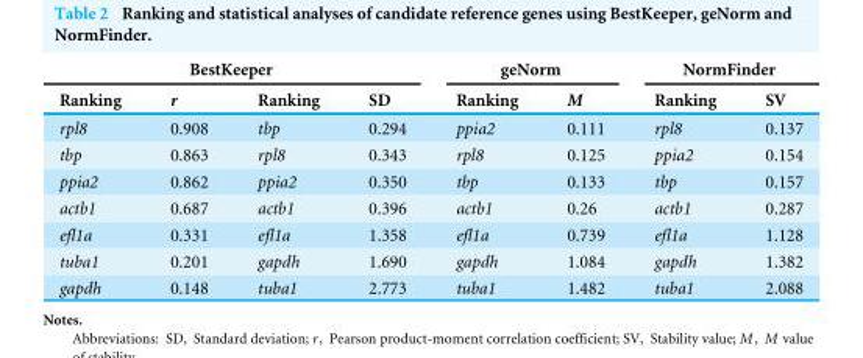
<table><thead><tr><td colspan="4">BestKeeper</td><td colspan="2">geNorm</td><td colspan="2">NormFinder</td></tr><tr><td>Ranking</td><td>r</td><td>Ranking</td><td>SD</td><td>Ranking</td><td>M</td><td>Ranking</td><td>SV</td></tr></thead><tbody><tr><td>rpl8</td><td>0.908</td><td>tbp</td><td>0.294</td><td>ppia2</td><td>0.111</td><td>rpl8</td><td>0.137</td></tr><tr><td>tbp</td><td>0.863</td><td>rpl8</td><td>0.343</td><td>rpl8</td><td>0.125</td><td>ppia2</td><td>0.154</td></tr><tr><td>ppia2</td><td>0.862</td><td>ppia2</td><td>0.350</td><td>tbp</td><td>0.133</td><td>tbp</td><td>0.157</td></tr><tr><td>actb1</td><td>0.687</td><td>actb1</td><td>0.396</td><td>actb1</td><td>0.26</td><td>actb1</td><td>0.287</td></tr><tr><td>efl1a</td><td>0.331</td><td>efl1a</td><td>1.358</td><td>efl1a</td><td>0.739</td><td>efl1a</td><td>1.128</td></tr><tr><td>tuba1</td><td>0.201</td><td>gapdh</td><td>1.690</td><td>gapdh</td><td>1.084</td><td>gapdh</td><td>1.382</td></tr><tr><td>gapdh</td><td>0.148</td><td>tuba1</td><td>2.773</td><td>tuba1</td><td>1.482</td><td>tuba1</td><td>2.088</td></tr></tbody></table>